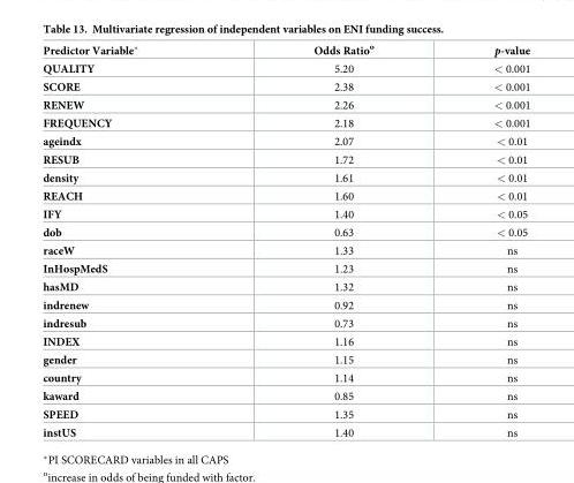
<table><thead><tr><td>Predictor Variable*</td><td>Odds Ratio<sup>o</sup></td><td>p-value</td></tr></thead><tbody><tr><td>QUALITY</td><td>5.20</td><td>&lt; 0.001</td></tr><tr><td>SCORE</td><td>2.38</td><td>&lt; 0.001</td></tr><tr><td>RENEW</td><td>2.26</td><td>&lt; 0.001</td></tr><tr><td>FREQUENCY</td><td>2.18</td><td>&lt; 0.001</td></tr><tr><td>ageindx</td><td>2.07</td><td>&lt; 0.01</td></tr><tr><td>RESUB</td><td>1.72</td><td>&lt; 0.01</td></tr><tr><td>density</td><td>1.61</td><td>&lt; 0.01</td></tr><tr><td>REACH</td><td>1.60</td><td>&lt; 0.01</td></tr><tr><td>IFY</td><td>1.40</td><td>&lt; 0.05</td></tr><tr><td>dob</td><td>0.63</td><td>&lt; 0.05</td></tr><tr><td>raceW</td><td>1.33</td><td>ns</td></tr><tr><td>InHospMedS</td><td>1.23</td><td>ns</td></tr><tr><td>hasMD</td><td>1.32</td><td>ns</td></tr><tr><td>indrenew</td><td>0.92</td><td>ns</td></tr><tr><td>indresub</td><td>0.73</td><td>ns</td></tr><tr><td>INDEX</td><td>1.16</td><td>ns</td></tr><tr><td>gender</td><td>1.15</td><td>ns</td></tr><tr><td>country</td><td>1.14</td><td>ns</td></tr><tr><td>kaward</td><td>0.85</td><td>ns</td></tr><tr><td>SPEED</td><td>1.35</td><td>ns</td></tr><tr><td>instUS</td><td>1.40</td><td>ns</td></tr></tbody></table>